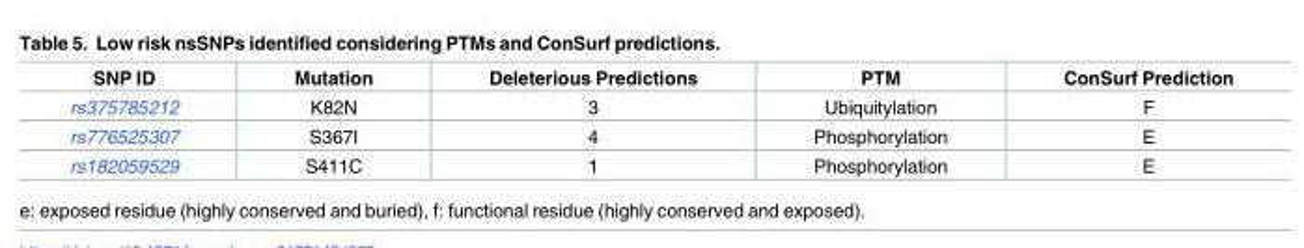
<table><thead><tr><td>SNP ID</td><td>Mutation</td><td>Deleterious Predictions</td><td>PTM</td><td>ConSurf Prediction</td></tr></thead><tbody><tr><td>rs375785212</td><td>K82N</td><td>3</td><td>Ubiquitylation</td><td>F</td></tr><tr><td>rs776525307</td><td>S367I</td><td>4</td><td>Phosphorylation</td><td>E</td></tr><tr><td>rs182059529</td><td>S411C</td><td>1</td><td>Phosphorylation</td><td>E</td></tr></tbody></table>